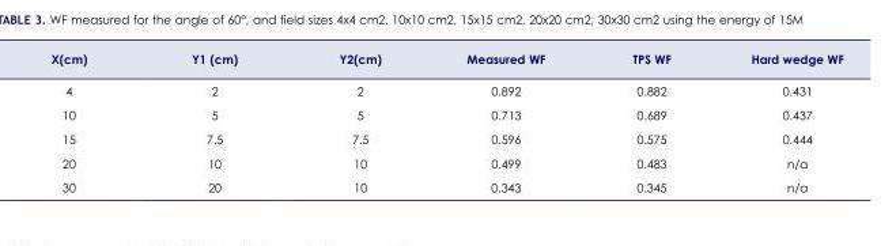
<table><thead><tr><td>X(cm)</td><td>Y1 (cm)</td><td>Y2(cm)</td><td>Measured WF</td><td>TPS WF</td><td>Hard wedge WF</td></tr></thead><tbody><tr><td>4</td><td>2</td><td>2</td><td>0.892</td><td>0.882</td><td>0.431</td></tr><tr><td>10</td><td>5</td><td>5</td><td>0.713</td><td>0.689</td><td>0.437</td></tr><tr><td>15</td><td>7.5</td><td>7.5</td><td>0.596</td><td>0.575</td><td>0.444</td></tr><tr><td>20</td><td>10</td><td>10</td><td>0.499</td><td>0.483</td><td>n/a</td></tr><tr><td>30</td><td>20</td><td>10</td><td>0.343</td><td>0.345</td><td>n/a</td></tr></tbody></table>